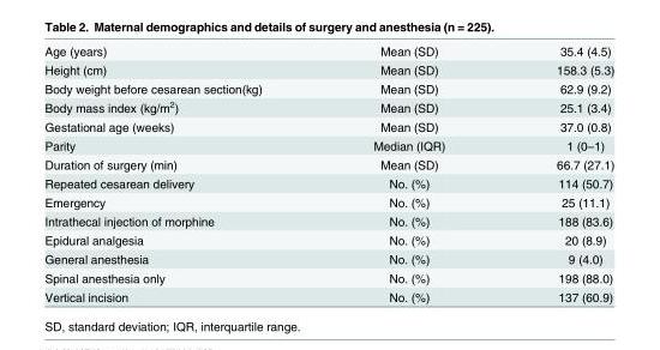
<table><tbody><tr><td>Age (years)</td><td>Mean (SD)</td><td>35.4 (4.5)</td></tr><tr><td>Height (cm)</td><td>Mean (SD)</td><td>158.3 (5.3)</td></tr><tr><td>Body weight before cesarean section(kg)</td><td>Mean (SD)</td><td>62.9 (9.2)</td></tr><tr><td>Body mass index (kg/m<sup>2</sup>)</td><td>Mean (SD)</td><td>25.1 (3.4)</td></tr><tr><td>Gestational age (weeks)</td><td>Mean (SD)</td><td>37.0 (0.8)</td></tr><tr><td>Parity</td><td>Median (IQR)</td><td>1 (0–1)</td></tr><tr><td>Duration of surgery (min)</td><td>Mean (SD)</td><td>66.7 (27.1)</td></tr><tr><td>Repeated cesarean delivery</td><td>No. (%)</td><td>114 (50.7)</td></tr><tr><td>Emergency</td><td>No. (%)</td><td>25 (11.1)</td></tr><tr><td>Intrathecal injection of morphine</td><td>No. (%)</td><td>188 (83.6)</td></tr><tr><td>Epidural analgesia</td><td>No. (%)</td><td>20 (8.9)</td></tr><tr><td>General anesthesia</td><td>No. (%)</td><td>9 (4.0)</td></tr><tr><td>Spinal anesthesia only</td><td>No. (%)</td><td>198 (88.0)</td></tr><tr><td>Vertical incision</td><td>No. (%)</td><td>137 (60.9)</td></tr></tbody></table>